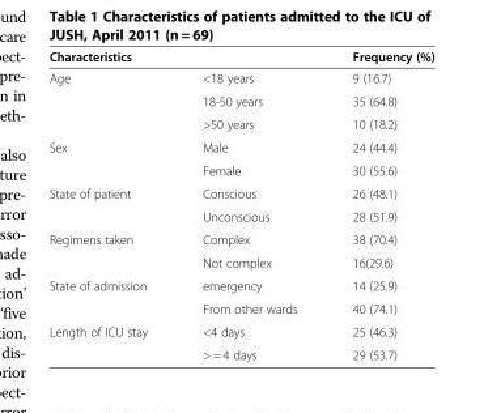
<table><thead><tr><td>Characteristics</td><td></td><td>Frequency (%)</td></tr></thead><tbody><tr><td rowspan="3">Age</td><td>&lt;18 years</td><td>9 (16.7)</td></tr><tr><td>18-50 years</td><td>35 (64.8)</td></tr><tr><td>&gt;50 years</td><td>10 (18.2)</td></tr><tr><td rowspan="2">Sex</td><td>Male</td><td>24 (44.4)</td></tr><tr><td>Female</td><td>30 (55.6)</td></tr><tr><td rowspan="2">State of patient</td><td>Conscious</td><td>26 (48.1)</td></tr><tr><td>Unconscious</td><td>28 (51.9)</td></tr><tr><td rowspan="2">Regimens taken</td><td>Complex</td><td>38 (70.4)</td></tr><tr><td>Not complex</td><td>16(29.6)</td></tr><tr><td rowspan="2">State of admission</td><td>emergency</td><td>14 (25.9)</td></tr><tr><td>From other wards</td><td>40 (74.1)</td></tr><tr><td rowspan="2">Length of ICU stay</td><td>&lt;4 days</td><td>25 (46.3)</td></tr><tr><td>&gt; = 4 days</td><td>29 (53.7)</td></tr></tbody></table>